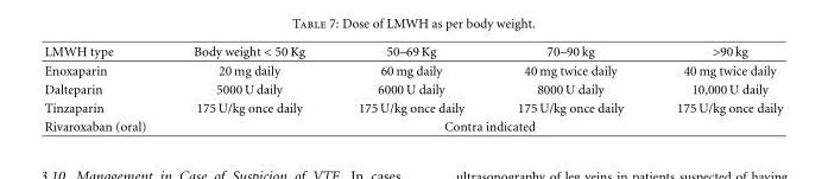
<table><thead><tr><td>LMWH type</td><td>Body weight &lt; 50 Kg</td><td>50–69 Kg</td><td>70–90 kg</td><td>&gt;90 kg</td></tr></thead><tbody><tr><td>Enoxaparin</td><td>20 mg daily</td><td>60 mg daily</td><td>40 mg twice daily</td><td>40 mg twice daily</td></tr><tr><td>Dalteparin</td><td>5000 U daily</td><td>6000 U daily</td><td>8000 U daily</td><td>10,000 U daily</td></tr><tr><td>Tinzaparin</td><td>175 U/kg once daily</td><td>175 U/kg once daily</td><td>175 U/kg once daily</td><td>175 U/kg once daily</td></tr><tr><td>Rivaroxaban (oral)</td><td colspan="4">Contra indicated</td></tr></tbody></table>